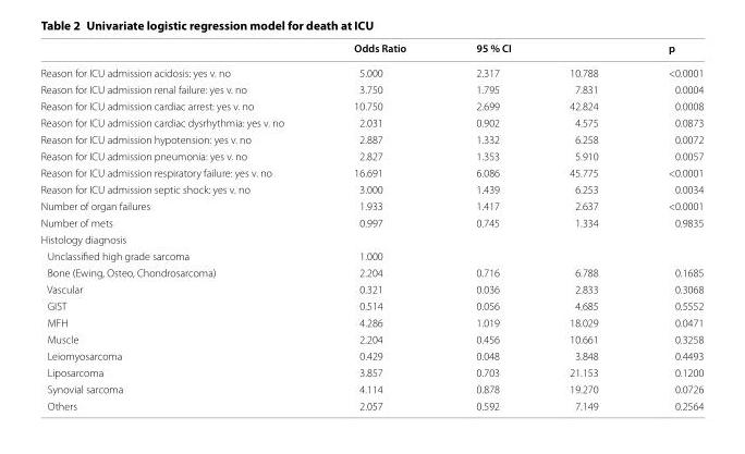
<table><thead><tr><td rowspan="2">Reason for ICU admission acidosis: yes v. no</td><td rowspan="2">Odds Ratio 5.000</td><td colspan="2">95 % CI</td><td rowspan="2">p &lt;0.0001</td></tr><tr><td>2.317</td><td>10.788</td></tr></thead><tbody><tr><td>Reason for ICU admission renal failure: yes v. no</td><td>3.750</td><td>1.795</td><td>7.831</td><td>0.0004</td></tr><tr><td>Reason for ICU admission cardiac arrest: yes v. no</td><td>10.750</td><td>2.699</td><td>42.824</td><td>0.0008</td></tr><tr><td>Reason for ICU admission cardiac dysrhythmia: yes v. no</td><td>2.031</td><td>0.902</td><td>4.575</td><td>0.0873</td></tr><tr><td>Reason for ICU admission hypotension: yes v. no</td><td>2.887</td><td>1.332</td><td>6.258</td><td>0.0072</td></tr><tr><td>Reason for ICU admission pneumonia: yes v. no</td><td>2.827</td><td>1.353</td><td>5.910</td><td>0.0057</td></tr><tr><td>Reason for ICU admission respiratory failure: yes v. no</td><td>16.691</td><td>6.086</td><td>45.775</td><td>&lt;0.0001</td></tr><tr><td>Reason for ICU admission septic shock: yes v. no</td><td>3.000</td><td>1.439</td><td>6.253</td><td>0.0034</td></tr><tr><td>Number of organ failures</td><td>1.933</td><td>1.417</td><td>2.637</td><td>&lt;0.0001</td></tr><tr><td>Number of mets</td><td>0.997</td><td>0.745</td><td>1.334</td><td>0.9835</td></tr><tr><td colspan="5">Histology diagnosis</td></tr><tr><td>Unclassified high grade sarcoma</td><td>1.000</td><td></td><td></td><td></td></tr><tr><td>Bone (Ewing, Osteo, Chondrosarcoma)</td><td>2.204</td><td>0.716</td><td>6.788</td><td>0.1685</td></tr><tr><td>Vascular</td><td>0.321</td><td>0.036</td><td>2.833</td><td>0.3068</td></tr><tr><td>GIST</td><td>0.514</td><td>0.056</td><td>4.685</td><td>0.5552</td></tr><tr><td>MFH</td><td>4.286</td><td>1.019</td><td>18.029</td><td>0.0471</td></tr><tr><td>Muscle</td><td>2.204</td><td>0.456</td><td>10.661</td><td>0.3258</td></tr><tr><td>Leiomyosarcoma</td><td>0.429</td><td>0.048</td><td>3.848</td><td>0.4493</td></tr><tr><td>Liposarcoma</td><td>3.857</td><td>0.703</td><td>21.153</td><td>0.1200</td></tr><tr><td>Synovial sarcoma</td><td>4.114</td><td>0.878</td><td>19.270</td><td>0.0726</td></tr><tr><td>Others</td><td>2.057</td><td>0.592</td><td>7.149</td><td>0.2564</td></tr></tbody></table>